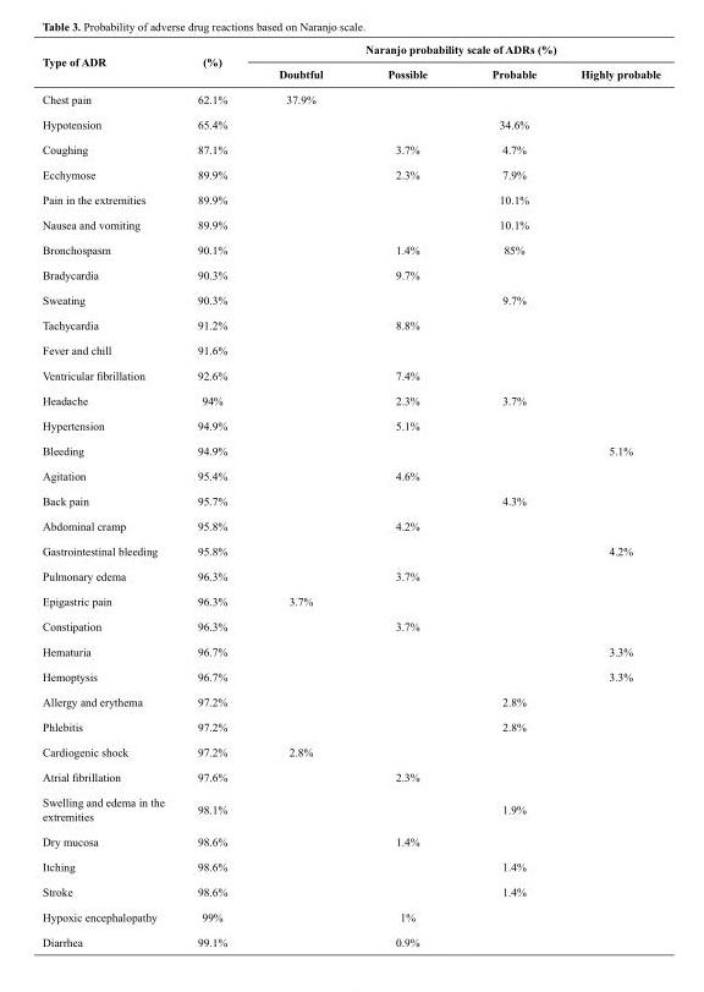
<table><thead><tr><td rowspan="2">Type of ADR</td><td rowspan="2">(%)</td><td colspan="4">Naranjo probability scale of ADRs (%)</td></tr><tr><td>Doubtful</td><td>Possible</td><td>Probable</td><td>Highly probable</td></tr></thead><tbody><tr><td>Chest pain</td><td>62.1%</td><td>37.9%</td><td></td><td></td><td></td></tr><tr><td>Hypotension</td><td>65.4%</td><td></td><td></td><td>34.6%</td><td></td></tr><tr><td>Coughing</td><td>87.1%</td><td></td><td>3.7%</td><td>4.7%</td><td></td></tr><tr><td>Ecchymose</td><td>89.9%</td><td></td><td>2.3%</td><td>7.9%</td><td></td></tr><tr><td>Pain in the extremities</td><td>89.9%</td><td></td><td></td><td>10.1%</td><td></td></tr><tr><td>Nausea and vomiting</td><td>89.9%</td><td></td><td></td><td>10.1%</td><td></td></tr><tr><td>Bronchospasm</td><td>90.1%</td><td></td><td>1.4%</td><td>85%</td><td></td></tr><tr><td>Bradycardia</td><td>90.3%</td><td></td><td>9.7%</td><td></td><td></td></tr><tr><td>Sweating</td><td>90.3%</td><td></td><td></td><td>9.7%</td><td></td></tr><tr><td>Tachycardia</td><td>91.2%</td><td></td><td>8.8%</td><td></td><td></td></tr><tr><td>Fever and chill</td><td>91.6%</td><td></td><td></td><td></td><td></td></tr><tr><td>Ventricular fibrillation</td><td>92.6%</td><td></td><td>7.4%</td><td></td><td></td></tr><tr><td>Headache</td><td>94%</td><td></td><td>2.3%</td><td>3.7%</td><td></td></tr><tr><td>Hypertension</td><td>94.9%</td><td></td><td>5.1%</td><td></td><td></td></tr><tr><td>Bleeding</td><td>94.9%</td><td></td><td></td><td></td><td>5.1%</td></tr><tr><td>Agitation</td><td>95.4%</td><td></td><td>4.6%</td><td></td><td></td></tr><tr><td>Back pain</td><td>95.7%</td><td></td><td></td><td>4.3%</td><td></td></tr><tr><td>Abdominal cramp</td><td>95.8%</td><td></td><td>4.2%</td><td></td><td></td></tr><tr><td>Gastrointestinal bleeding</td><td>95.8%</td><td></td><td></td><td></td><td>4.2%</td></tr><tr><td>Pulmonary edema</td><td>96.3%</td><td></td><td>3.7%</td><td></td><td></td></tr><tr><td>Epigastric pain</td><td>96.3%</td><td>3.7%</td><td></td><td></td><td></td></tr><tr><td>Constipation</td><td>96.3%</td><td></td><td>3.7%</td><td></td><td></td></tr><tr><td>Hematuria</td><td>96.7%</td><td></td><td></td><td></td><td>3.3%</td></tr><tr><td>Hemoptysis</td><td>96.7%</td><td></td><td></td><td></td><td>3.3%</td></tr><tr><td>Allergy and erythema</td><td>97.2%</td><td></td><td></td><td>2.8%</td><td></td></tr><tr><td>Phlebitis</td><td>97.2%</td><td></td><td></td><td>2.8%</td><td></td></tr><tr><td>Cardiogenic shock</td><td>97.2%</td><td>2.8%</td><td></td><td></td><td></td></tr><tr><td>Atrial fibrillation</td><td>97.6%</td><td></td><td>2.3%</td><td></td><td></td></tr><tr><td>Swelling and edema in the extremities</td><td>98.1%</td><td></td><td></td><td>1.9%</td><td></td></tr><tr><td>Dry mucosa</td><td>98.6%</td><td></td><td>1.4%</td><td></td><td></td></tr><tr><td>Itching</td><td>98.6%</td><td></td><td></td><td>1.4%</td><td></td></tr><tr><td>Stroke</td><td>98.6%</td><td></td><td></td><td>1.4%</td><td></td></tr><tr><td>Hypoxic encephalopathy</td><td>99%</td><td></td><td>1%</td><td></td><td></td></tr><tr><td>Diarrhea</td><td>99.1%</td><td></td><td>0.9%</td><td></td><td></td></tr></tbody></table>